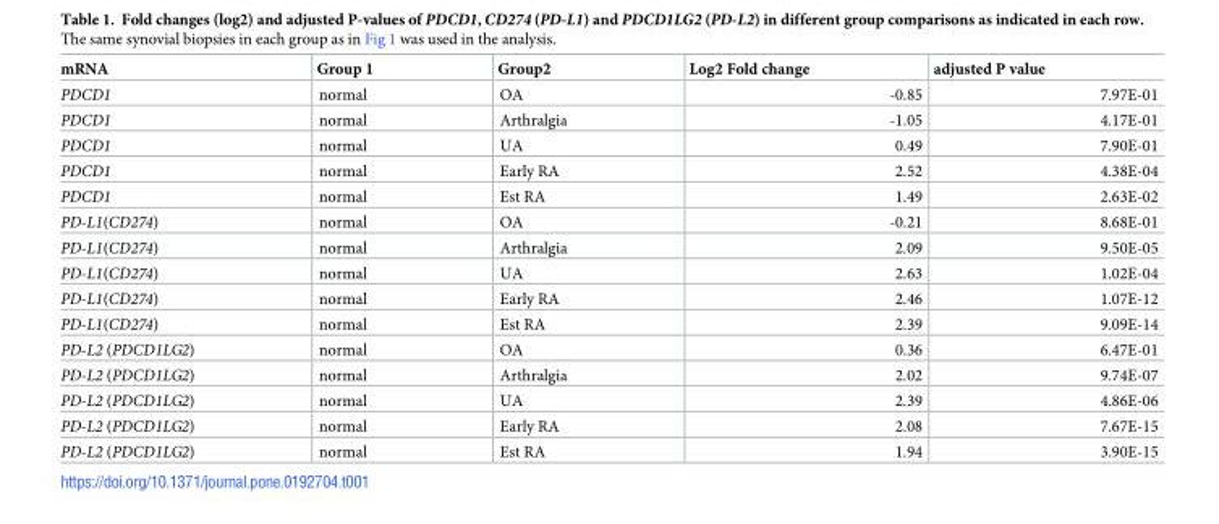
<table><thead><tr><td>mRNA</td><td>Group 1</td><td>Group2</td><td>Log2 Fold change</td><td>adjusted P value</td></tr></thead><tbody><tr><td>PDCD1</td><td>normal</td><td>OA</td><td>-0.85</td><td>7.97E-01</td></tr><tr><td>PDCD1</td><td>normal</td><td>Arthralgia</td><td>-1.05</td><td>4.17E-01</td></tr><tr><td>PDCD1</td><td>normal</td><td>UA</td><td>0.49</td><td>7.90E-01</td></tr><tr><td>PDCD1</td><td>normal</td><td>Early RA</td><td>2.52</td><td>4.38E-04</td></tr><tr><td>PDCD1</td><td>normal</td><td>Est RA</td><td>1.49</td><td>2.63E-02</td></tr><tr><td>PD-L1(CD274)</td><td>normal</td><td>OA</td><td>-0.21</td><td>8.68E-01</td></tr><tr><td>PD-L1(CD274)</td><td>normal</td><td>Arthralgia</td><td>2.09</td><td>9.50E-05</td></tr><tr><td>PD-L1(CD274)</td><td>normal</td><td>UA</td><td>2.63</td><td>1.02E-04</td></tr><tr><td>PD-L1(CD274)</td><td>normal</td><td>Early RA</td><td>2.46</td><td>1.07E-12</td></tr><tr><td>PD-L1(CD274)</td><td>normal</td><td>Est RA</td><td>2.39</td><td>9.09E-14</td></tr><tr><td>PD-L2 (PDCD1LG2)</td><td>normal</td><td>OA</td><td>0.36</td><td>6.47E-01</td></tr><tr><td>PD-L2 (PDCD1LG2)</td><td>normal</td><td>Arthralgia</td><td>2.02</td><td>9.74E-07</td></tr><tr><td>PD-L2 (PDCD1LG2)</td><td>normal</td><td>UA</td><td>2.39</td><td>4.86E-06</td></tr><tr><td>PD-L2 (PDCD1LG2)</td><td>normal</td><td>Early RA</td><td>2.08</td><td>7.67E-15</td></tr><tr><td>PD-L2 (PDCD1LG2)</td><td>normal</td><td>Est RA</td><td>1.94</td><td>3.90E-15</td></tr></tbody></table>